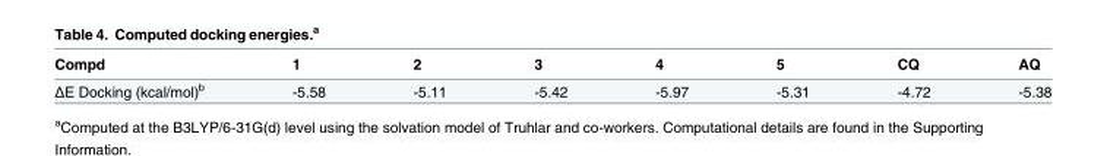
<table><thead><tr><td>Compd</td><td>1</td><td>2</td><td>3</td><td>4</td><td>5</td><td>CQ</td><td>AQ</td></tr></thead><tbody><tr><td>ΔE Docking (kcal/mol)<sup>b</sup></td><td>-5.58</td><td>-5.11</td><td>-5.42</td><td>-5.97</td><td>-5.31</td><td>-4.72</td><td>-5.38</td></tr></tbody></table>